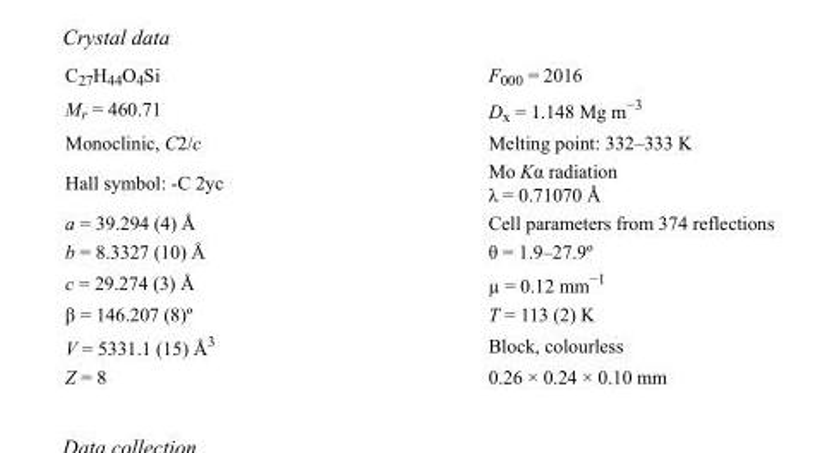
<table><tbody><tr><td>C<sub>27</sub>H<sub>44</sub>O<sub>4</sub>Si</td><td>F<sub>000</sub> = 2016</td></tr><tr><td>M<sub>r</sub> = 460.71</td><td>D<sub>x</sub> = 1.148 Mg m<sup>−3</sup></td></tr><tr><td>Monoclinic, C2/c</td><td>Melting point= 332–333 K</td></tr><tr><td>Hall symbol: -C 2yc</td><td>Mo Kα radiation λ = 0.71070 Å</td></tr><tr><td>a = 39.294 (4) Å</td><td>Cell parameters from 374 reflections</td></tr><tr><td>b = 8.3327 (10) Å</td><td>θ = 1.9–27.9º</td></tr><tr><td>c = 29.274 (3) Å</td><td>µ = 0.12 mm<sup>−1</sup></td></tr><tr><td>β = 146.207 (8)º</td><td>T = 113 (2) K</td></tr><tr><td>V = 5331.1 (15) Å<sup>3</sup></td><td>Block, colourless</td></tr><tr><td>Z = 8</td><td>0.26 × 0.24 × 0.10 mm</td></tr></tbody></table>